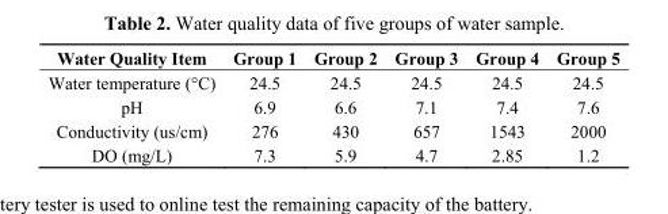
<table><thead><tr><td>Water Quality Item</td><td>Group 1</td><td>Group 2</td><td>Group 3</td><td>Group 4</td><td>Group 5</td></tr></thead><tbody><tr><td>Water temperature (°C)</td><td>24.5</td><td>24.5</td><td>24.5</td><td>24.5</td><td>24.5</td></tr><tr><td>pH</td><td>6.9</td><td>6.6</td><td>7.1</td><td>7.4</td><td>7.6</td></tr><tr><td>Conductivity (us/cm)</td><td>276</td><td>430</td><td>657</td><td>1543</td><td>2000</td></tr><tr><td>DO (mg/L)</td><td>7.3</td><td>5.9</td><td>4.7</td><td>2.85</td><td>1.2</td></tr></tbody></table>